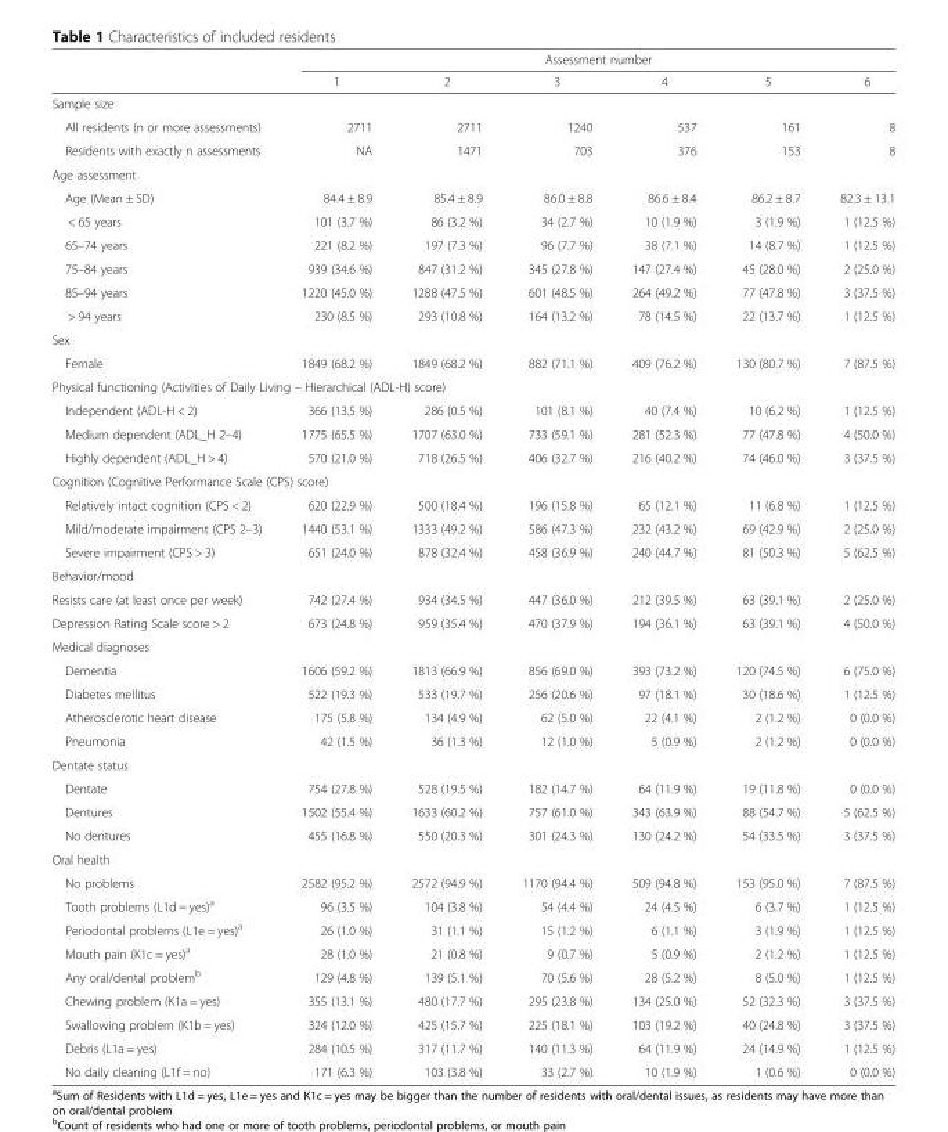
<table><thead><tr><td rowspan="2"></td><td colspan="6">Assessment number</td></tr><tr><td>1</td><td>2</td><td>3</td><td>4</td><td>5</td><td>6</td></tr></thead><tbody><tr><td colspan="7">Sample size</td></tr><tr><td>All residents (n or more assessments)</td><td>2711</td><td>2711</td><td>1240</td><td>537</td><td>161</td><td>8</td></tr><tr><td>Residents with exactly n assessments</td><td>NA</td><td>1471</td><td>703</td><td>376</td><td>153</td><td>8</td></tr><tr><td colspan="7">Age assessment</td></tr><tr><td>Age (Mean ± SD)</td><td>84.4 ± 8.9</td><td>85.4 ± 8.9</td><td>86.0 ± 8.8</td><td>86.6 ± 8.4</td><td>86.2 ± 8.7</td><td>82.3 ± 13.1</td></tr><tr><td>&lt; 65 years</td><td>101 (3.7 %)</td><td>86 (3.2 %)</td><td>34 (2.7 %)</td><td>10 (1.9 %)</td><td>3 (1.9 %)</td><td>1 (12.5 %)</td></tr><tr><td>65–74 years</td><td>221 (8.2 %)</td><td>197 (7.3 %)</td><td>96 (7.7 %)</td><td>38 (7.1 %)</td><td>14 (8.7 %)</td><td>1 (12.5 %)</td></tr><tr><td>75–84 years</td><td>939 (34.6 %)</td><td>847 (31.2 %)</td><td>345 (27.8 %)</td><td>147 (27.4 %)</td><td>45 (28.0 %)</td><td>2 (25.0 %)</td></tr><tr><td>85–94 years</td><td>1220 (45.0 %)</td><td>1288 (47.5 %)</td><td>601 (48.5 %)</td><td>264 (49.2 %)</td><td>77 (47.8 %)</td><td>3 (37.5 %)</td></tr><tr><td>&gt; 94 years</td><td>230 (8.5 %)</td><td>293 (10.8 %)</td><td>164 (13.2 %)</td><td>78 (14.5 %)</td><td>22 (13.7 %)</td><td>1 (12.5 %)</td></tr><tr><td colspan="7">Sex</td></tr><tr><td>Female</td><td>1849 (68.2 %)</td><td>1849 (68.2 %)</td><td>882 (71.1 %)</td><td>409 (76.2 %)</td><td>130 (80.7 %)</td><td>7 (87.5 %)</td></tr><tr><td colspan="7">Physical functioning (Activities of Daily Living – Hierarchical (ADL-H) score)</td></tr><tr><td>Independent (ADL-H &lt; 2)</td><td>366 (13.5 %)</td><td>286 (0.5 %)</td><td>101 (8.1 %)</td><td>40 (7.4 %)</td><td>10 (6.2 %)</td><td>1 (12.5 %)</td></tr><tr><td>Medium dependent (ADL_H 2–4)</td><td>1775 (65.5 %)</td><td>1707 (63.0 %)</td><td>733 (59.1 %)</td><td>281 (52.3 %)</td><td>77 (47.8 %)</td><td>4 (50.0 %)</td></tr><tr><td>Highly dependent (ADL_H &gt; 4)</td><td>570 (21.0 %)</td><td>718 (26.5 %)</td><td>406 (32.7 %)</td><td>216 (40.2 %)</td><td>74 (46.0 %)</td><td>3 (37.5 %)</td></tr><tr><td colspan="7">Cognition (Cognitive Performance Scale (CPS) score)</td></tr><tr><td>Relatively intact cognition (CPS &lt; 2)</td><td>620 (22.9 %)</td><td>500 (18.4 %)</td><td>196 (15.8 %)</td><td>65 (12.1 %)</td><td>11 (6.8 %)</td><td>1 (12.5 %)</td></tr><tr><td>Mild/moderate impairment (CPS 2–3)</td><td>1440 (53.1 %)</td><td>1333 (49.2 %)</td><td>586 (47.3 %)</td><td>232 (43.2 %)</td><td>69 (42.9 %)</td><td>2 (25.0 %)</td></tr><tr><td>Severe impairment (CPS &gt; 3)</td><td>651 (24.0 %)</td><td>878 (32.4 %)</td><td>458 (36.9 %)</td><td>240 (44.7 %)</td><td>81 (50.3 %)</td><td>5 (62.5 %)</td></tr><tr><td colspan="7">Behavior/mood</td></tr><tr><td>Resists care (at least once per week)</td><td>742 (27.4 %)</td><td>934 (34.5 %)</td><td>447 (36.0 %)</td><td>212 (39.5 %)</td><td>63 (39.1 %)</td><td>2 (25.0 %)</td></tr><tr><td>Depression Rating Scale score &gt; 2</td><td>673 (24.8 %)</td><td>959 (35.4 %)</td><td>470 (37.9 %)</td><td>194 (36.1 %)</td><td>63 (39.1 %)</td><td>4 (50.0 %)</td></tr><tr><td colspan="7">Medical diagnoses</td></tr><tr><td>Dementia</td><td>1606 (59.2 %)</td><td>1813 (66.9 %)</td><td>856 (69.0 %)</td><td>393 (73.2 %)</td><td>120 (74.5 %)</td><td>6 (75.0 %)</td></tr><tr><td>Diabetes mellitus</td><td>522 (19.3 %)</td><td>533 (19.7 %)</td><td>256 (20.6 %)</td><td>97 (18.1 %)</td><td>30 (18.6 %)</td><td>1 (12.5 %)</td></tr><tr><td>Atherosclerotic heart disease</td><td>175 (5.8 %)</td><td>134 (4.9 %)</td><td>62 (5.0 %)</td><td>22 (4.1 %)</td><td>2 (1.2 %)</td><td>0 (0.0 %)</td></tr><tr><td>Pneumonia</td><td>42 (1.5 %)</td><td>36 (1.3 %)</td><td>12 (1.0 %)</td><td>5 (0.9 %)</td><td>2 (1.2 %)</td><td>0 (0.0 %)</td></tr><tr><td colspan="7">Dentate status</td></tr><tr><td>Dentate</td><td>754 (27.8 %)</td><td>528 (19.5 %)</td><td>182 (14.7 %)</td><td>64 (11.9 %)</td><td>19 (11.8 %)</td><td>0 (0.0 %)</td></tr><tr><td>Dentures</td><td>1502 (55.4 %)</td><td>1633 (60.2 %)</td><td>757 (61.0 %)</td><td>343 (63.9 %)</td><td>88 (54.7 %)</td><td>5 (62.5 %)</td></tr><tr><td>No dentures</td><td>455 (16.8 %)</td><td>550 (20.3 %)</td><td>301 (24.3 %)</td><td>130 (24.2 %)</td><td>54 (33.5 %)</td><td>3 (37.5 %)</td></tr><tr><td colspan="7">Oral health</td></tr><tr><td>No problems</td><td>2582 (95.2 %)</td><td>2572 (94.9 %)</td><td>1170 (94.4 %)</td><td>509 (94.8 %)</td><td>153 (95.0 %)</td><td>7 (87.5 %)</td></tr><tr><td>Tooth problems (L1d = yes)<sup>a</sup></td><td>96 (3.5 %)</td><td>104 (3.8 %)</td><td>54 (4.4 %)</td><td>24 (4.5 %)</td><td>6 (3.7 %)</td><td>1 (12.5 %)</td></tr><tr><td>Periodontal problems (L1e = yes)<sup>a</sup></td><td>26 (1.0 %)</td><td>31 (1.1 %)</td><td>15 (1.2 %)</td><td>6 (1.1 %)</td><td>3 (1.9 %)</td><td>1 (12.5 %)</td></tr><tr><td>Mouth pain (K1c = yes)<sup>a</sup></td><td>28 (1.0 %)</td><td>21 (0.8 %)</td><td>9 (0.7 %)</td><td>5 (0.9 %)</td><td>2 (1.2 %)</td><td>1 (12.5 %)</td></tr><tr><td>Any oral/dental problem<sup>b</sup></td><td>129 (4.8 %)</td><td>139 (5.1 %)</td><td>70 (5.6 %)</td><td>28 (5.2 %)</td><td>8 (5.0 %)</td><td>1 (12.5 %)</td></tr><tr><td>Chewing problem (K1a = yes)</td><td>355 (13.1 %)</td><td>480 (17.7 %)</td><td>295 (23.8 %)</td><td>134 (25.0 %)</td><td>52 (32.3 %)</td><td>3 (37.5 %)</td></tr><tr><td>Swallowing problem (K1b = yes)</td><td>324 (12.0 %)</td><td>425 (15.7 %)</td><td>225 (18.1 %)</td><td>103 (19.2 %)</td><td>40 (24.8 %)</td><td>3 (37.5 %)</td></tr><tr><td>Debris (L1a = yes)</td><td>284 (10.5 %)</td><td>317 (11.7 %)</td><td>140 (11.3 %)</td><td>64 (11.9 %)</td><td>24 (14.9 %)</td><td>1 (12.5 %)</td></tr><tr><td>No daily cleaning (L1f = no)</td><td>171 (6.3 %)</td><td>103 (3.8 %)</td><td>33 (2.7 %)</td><td>10 (1.9 %)</td><td>1 (0.6 %)</td><td>0 (0.0 %)</td></tr></tbody></table>